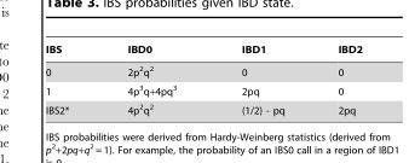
<table><thead><tr><td>IBS</td><td>IBD0</td><td>IBD1</td><td>IBD2</td></tr></thead><tbody><tr><td>0</td><td>2p<sup>2</sup>q<sup>2</sup></td><td>0</td><td>0</td></tr><tr><td>1</td><td>4p<sup>3</sup>q+4pq<sup>3</sup></td><td>2pq</td><td>0</td></tr><tr><td>IBS2*</td><td>4p<sup>2</sup>q<sup>2</sup></td><td>(1/2) - pq</td><td>2pq</td></tr></tbody></table>